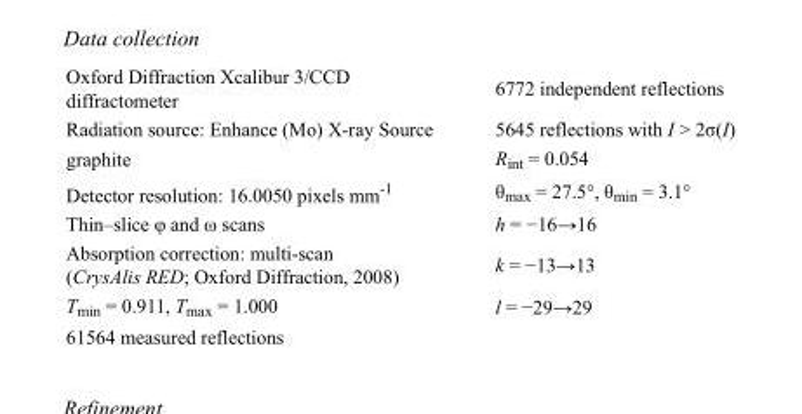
<table><tbody><tr><td>Oxford Diffraction Xcalibur 3/CCD diffractometer</td><td>6772 independent reflections</td></tr><tr><td>Radiation source: Enhance (Mo) X-ray Source</td><td>5645 reflections with I &gt; 2σ(I)</td></tr><tr><td>graphite</td><td>R<sub>int</sub> = 0.054</td></tr><tr><td>Detector resolution: 16.0050 pixels mm<sup>-1</sup></td><td>θ<sub>max</sub> = 27.5°, θ<sub>min</sub> = 3.1°</td></tr><tr><td>Thin–slice φ and ω scans</td><td>h = −16→16</td></tr><tr><td>Absorption correction: multi-scan (CrysAlis RED; Oxford Diffraction, 2008)</td><td>k = −13→13</td></tr><tr><td>T<sub>min</sub> = 0.911, T<sub>max</sub> = 1.000</td><td>l = −29→29</td></tr><tr><td>61564 measured reflections</td><td></td></tr></tbody></table>